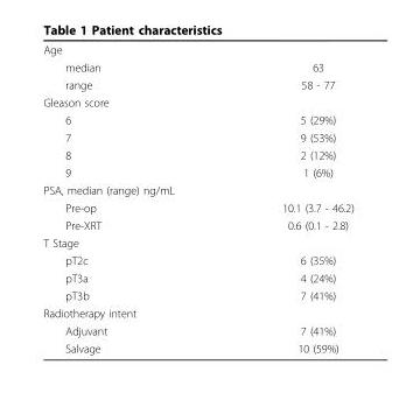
<table><tbody><tr><td colspan="2">Age</td></tr><tr><td>median</td><td>63</td></tr><tr><td>range</td><td>58 - 77</td></tr><tr><td colspan="2">Gleason score</td></tr><tr><td>6</td><td>5 (29%)</td></tr><tr><td>7</td><td>9 (53%)</td></tr><tr><td>8</td><td>2 (12%)</td></tr><tr><td>9</td><td>1 (6%)</td></tr><tr><td colspan="2">PSA, median (range) ng/mL</td></tr><tr><td>Pre-op</td><td>10.1 (3.7 - 46.2)</td></tr><tr><td>Pre-XRT</td><td>0.6 (0.1 - 2.8)</td></tr><tr><td colspan="2">T Stage</td></tr><tr><td>pT2c</td><td>6 (35%)</td></tr><tr><td>pT3a</td><td>4 (24%)</td></tr><tr><td>pT3b</td><td>7 (41%)</td></tr><tr><td colspan="2">Radiotherapy intent</td></tr><tr><td>Adjuvant</td><td>7 (41%)</td></tr><tr><td>Salvage</td><td>10 (59%)</td></tr></tbody></table>